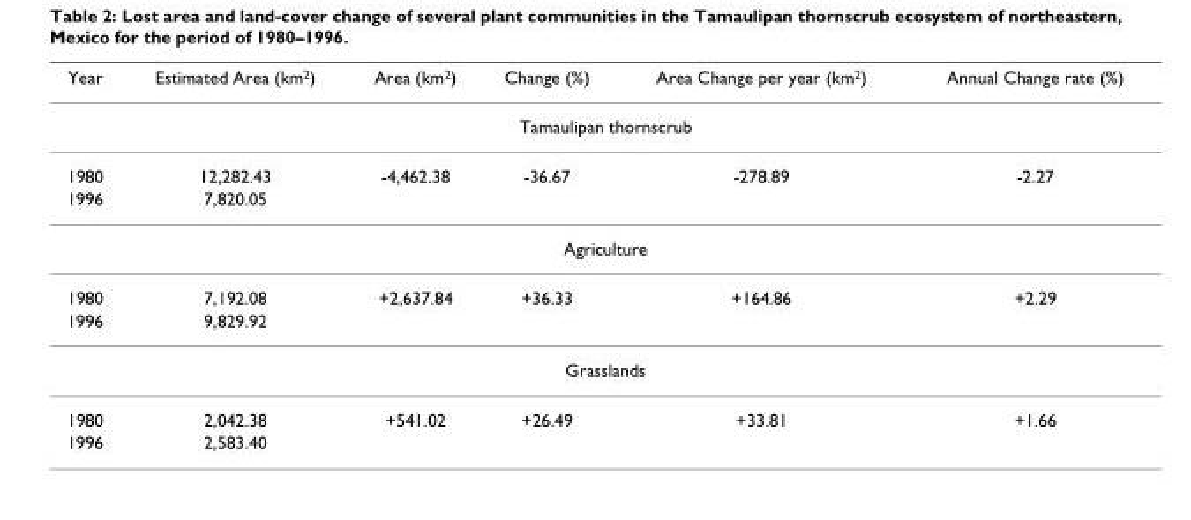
<table><thead><tr><td>Year</td><td>Estimated Area (km<sup>2</sup>)</td><td>Area (km<sup>2</sup>)</td><td>Change (%)</td><td>Area Change per year (km<sup>2</sup>)</td><td>Annual Change rate (%)</td></tr></thead><tbody><tr><td colspan="6">Tamaulipan thornscrub</td></tr><tr><td>1980</td><td>12,282.43</td><td>-4,462.38</td><td>-36.67</td><td>-278.89</td><td>-2.27</td></tr><tr><td>1996</td><td>7,820.05</td><td></td><td></td><td></td><td></td></tr><tr><td colspan="6">Agriculture</td></tr><tr><td>1980</td><td>7,192.08</td><td>+2,637.84</td><td>+36.33</td><td>+164.86</td><td>+2.29</td></tr><tr><td>1996</td><td>9,829.92</td><td></td><td></td><td></td><td></td></tr><tr><td colspan="6">Grasslands</td></tr><tr><td>1980</td><td>2,042.38</td><td>+541.02</td><td>+26.49</td><td>+33.81</td><td>+1.66</td></tr><tr><td>1996</td><td>2,583.40</td><td></td><td></td><td></td><td></td></tr></tbody></table>